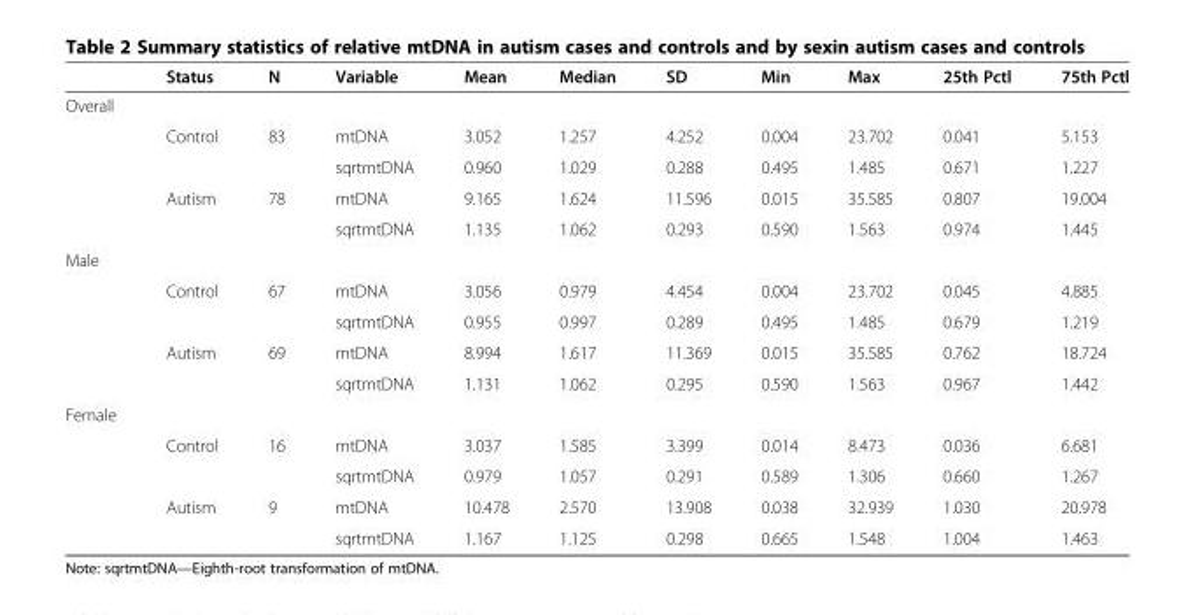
<table><thead><tr><td></td><td>Status</td><td>N</td><td>Variable</td><td>Mean</td><td>Median</td><td>SD</td><td>Min</td><td>Max</td><td>25th Pctl</td><td>75th Pctl</td></tr></thead><tbody><tr><td colspan="11">Overall</td></tr><tr><td></td><td rowspan="2">Control</td><td rowspan="2">83</td><td>mtDNA</td><td>3.052</td><td>1.257</td><td>4.252</td><td>0.004</td><td>23.702</td><td>0.041</td><td>5.153</td></tr><tr><td></td><td>sqrtmtDNA</td><td>0.960</td><td>1.029</td><td>0.288</td><td>0.495</td><td>1.485</td><td>0.671</td><td>1.227</td></tr><tr><td></td><td rowspan="2">Autism</td><td rowspan="2">78</td><td>mtDNA</td><td>9.165</td><td>1.624</td><td>11.596</td><td>0.015</td><td>35.585</td><td>0.807</td><td>19.004</td></tr><tr><td></td><td>sqrtmtDNA</td><td>1.135</td><td>1.062</td><td>0.293</td><td>0.590</td><td>1.563</td><td>0.974</td><td>1.445</td></tr><tr><td colspan="11">Male</td></tr><tr><td></td><td rowspan="2">Control</td><td rowspan="2">67</td><td>mtDNA</td><td>3.056</td><td>0.979</td><td>4.454</td><td>0.004</td><td>23.702</td><td>0.045</td><td>4.885</td></tr><tr><td></td><td>sqrtmtDNA</td><td>0.955</td><td>0.997</td><td>0.289</td><td>0.495</td><td>1.485</td><td>0.679</td><td>1.219</td></tr><tr><td></td><td rowspan="2">Autism</td><td rowspan="2">69</td><td>mtDNA</td><td>8.994</td><td>1.617</td><td>11.369</td><td>0.015</td><td>35.585</td><td>0.762</td><td>18.724</td></tr><tr><td></td><td>sqrtmtDNA</td><td>1.131</td><td>1.062</td><td>0.295</td><td>0.590</td><td>1.563</td><td>0.967</td><td>1.442</td></tr><tr><td colspan="11">Female</td></tr><tr><td></td><td rowspan="2">Control</td><td rowspan="2">16</td><td>mtDNA</td><td>3.037</td><td>1.585</td><td>3.399</td><td>0.014</td><td>8.473</td><td>0.036</td><td>6.681</td></tr><tr><td></td><td>sqrtmtDNA</td><td>0.979</td><td>1.057</td><td>0.291</td><td>0.589</td><td>1.306</td><td>0.660</td><td>1.267</td></tr><tr><td></td><td rowspan="2">Autism</td><td rowspan="2">9</td><td>mtDNA</td><td>10.478</td><td>2.570</td><td>13.908</td><td>0.038</td><td>32.939</td><td>1.030</td><td>20.978</td></tr><tr><td></td><td>sqrtmtDNA</td><td>1.167</td><td>1.125</td><td>0.298</td><td>0.665</td><td>1.548</td><td>1.004</td><td>1.463</td></tr></tbody></table>